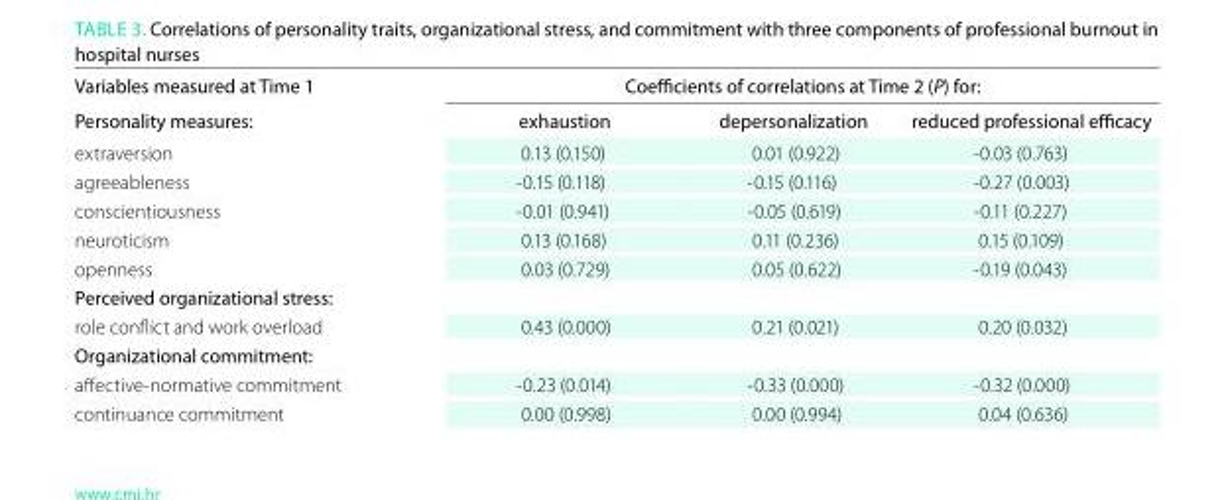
<table><thead><tr><td rowspan="2">Variables measured at time 1 Personality measures:</td><td colspan="3">Coefficients of correlations at time 2 (P) for:</td></tr><tr><td>exhaustion</td><td>depersonalization</td><td>reduced professional efficacy</td></tr></thead><tbody><tr><td>extraversion</td><td>0.13 (0.150)</td><td>0.01 (0.922)</td><td>-0.03 (0.763)</td></tr><tr><td>agreeableness</td><td>-0.15 (0.118)</td><td>-0.15 (0.116)</td><td>-0.27 (0.003)</td></tr><tr><td>conscientiousness</td><td>-0.01 (0.941)</td><td>-0.05 (0.619)</td><td>-0.11 (0.227)</td></tr><tr><td>neuroticism</td><td>0.13 (0.168)</td><td>0.11 (0.236)</td><td>0.15 (0.109)</td></tr><tr><td>openness</td><td>0.03 (0.729)</td><td>0.05 (0.622)</td><td>-0.19 (0.043)</td></tr><tr><td colspan="4">Perceived organizational stress:</td></tr><tr><td>role conflict and work overload</td><td>0.43 (0.000)</td><td>0.21 (0.021)</td><td>0.20 (0.032)</td></tr><tr><td colspan="4">organizational commitment:</td></tr><tr><td>affective-normative commitment</td><td>-0.23 (0.014)</td><td>-0.33 (0.000)</td><td>-0.32 (0.000)</td></tr><tr><td>continuance commitment</td><td>0.00 (0.998)</td><td>0.00 (0.994)</td><td>0.04 (0.636)</td></tr></tbody></table>